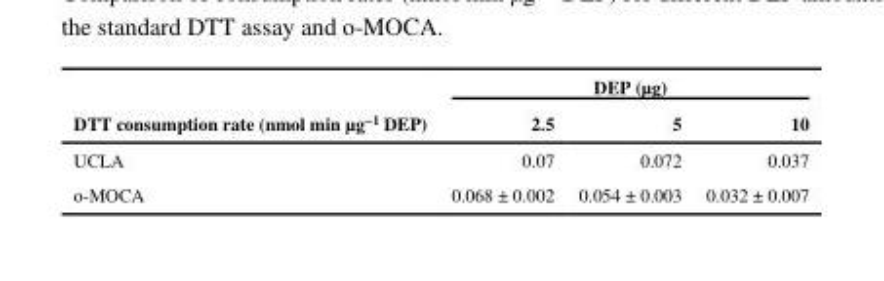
<table><thead><tr><td rowspan="2">DTT consumption rate (nmol min μg<sup>−1</sup> DEP)</td><td colspan="3">DEP (μg)</td></tr><tr><td>2.5</td><td>5</td><td>10</td></tr></thead><tbody><tr><td>UCLA</td><td>0.07</td><td>0.072</td><td>0.037</td></tr><tr><td>o-MOCA</td><td>0.068 ± 0.002</td><td>0.054 ± 0.003</td><td>0.032 ± 0.007</td></tr></tbody></table>